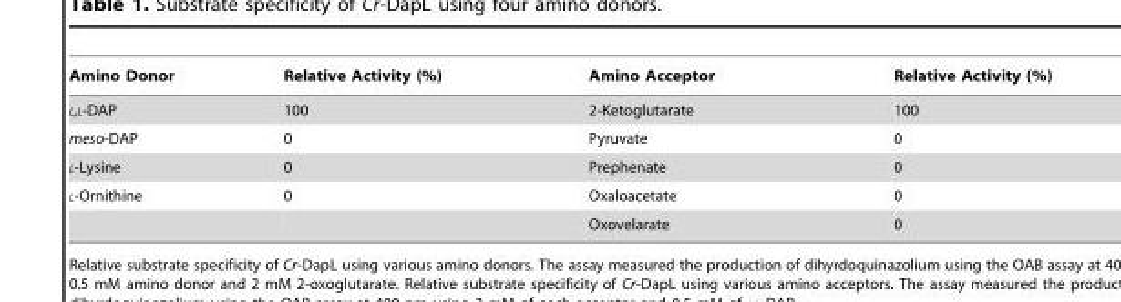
<table><thead><tr><td>Amino Donor</td><td>Relative Activity (%)</td><td>Amino Acceptor</td><td>Relative Activity (%)</td></tr></thead><tbody><tr><td>L,L-DAP</td><td>100</td><td>2-Ketoglutarate</td><td>100</td></tr><tr><td>meso-DAP</td><td>0</td><td>Pyruvate</td><td>0</td></tr><tr><td>L-Lysine</td><td>0</td><td>Prephenate</td><td>0</td></tr><tr><td rowspan="2">L-Ornithine</td><td>0</td><td>Oxaloacetate</td><td>0</td></tr><tr><td></td><td>Oxovelarate</td><td>0</td></tr></tbody></table>